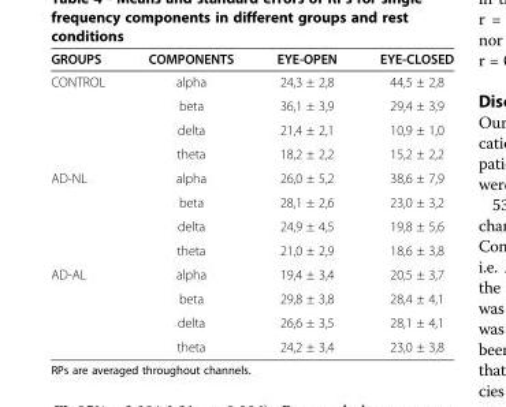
<table><thead><tr><td>GROUPS</td><td>COMPONENTS</td><td>EYE-OPEN</td><td>EYE-CLOSED</td></tr></thead><tbody><tr><td rowspan="4">CONTROL</td><td>alpha</td><td>24,3 ± 2,8</td><td>44,5 ± 2,8</td></tr><tr><td>beta</td><td>36,1 ± 3,9</td><td>29,4 ± 3,9</td></tr><tr><td>delta</td><td>21,4 ± 2,1</td><td>10,9 ± 1,0</td></tr><tr><td>theta</td><td>18,2 ± 2,2</td><td>15,2 ± 2,2</td></tr><tr><td rowspan="4">AD-NL</td><td>alpha</td><td>26,0 ± 5,2</td><td>38,6 ± 7,9</td></tr><tr><td>beta</td><td>28,1 ± 2,6</td><td>23,0 ± 3,2</td></tr><tr><td>delta</td><td>24,9 ± 4,5</td><td>19,8 ± 5,6</td></tr><tr><td>theta</td><td>21,0 ± 2,9</td><td>18,6 ± 3,8</td></tr><tr><td rowspan="4">AD-AL</td><td>alpha</td><td>19,4 ± 3,4</td><td>20,5 ± 3,7</td></tr><tr><td>beta</td><td>29,8 ± 3,8</td><td>28,4 ± 4,1</td></tr><tr><td>delta</td><td>26,6 ± 3,5</td><td>28,1 ± 4,1</td></tr><tr><td>theta</td><td>24,2 ± 3,4</td><td>23,0 ± 3,8</td></tr></tbody></table>